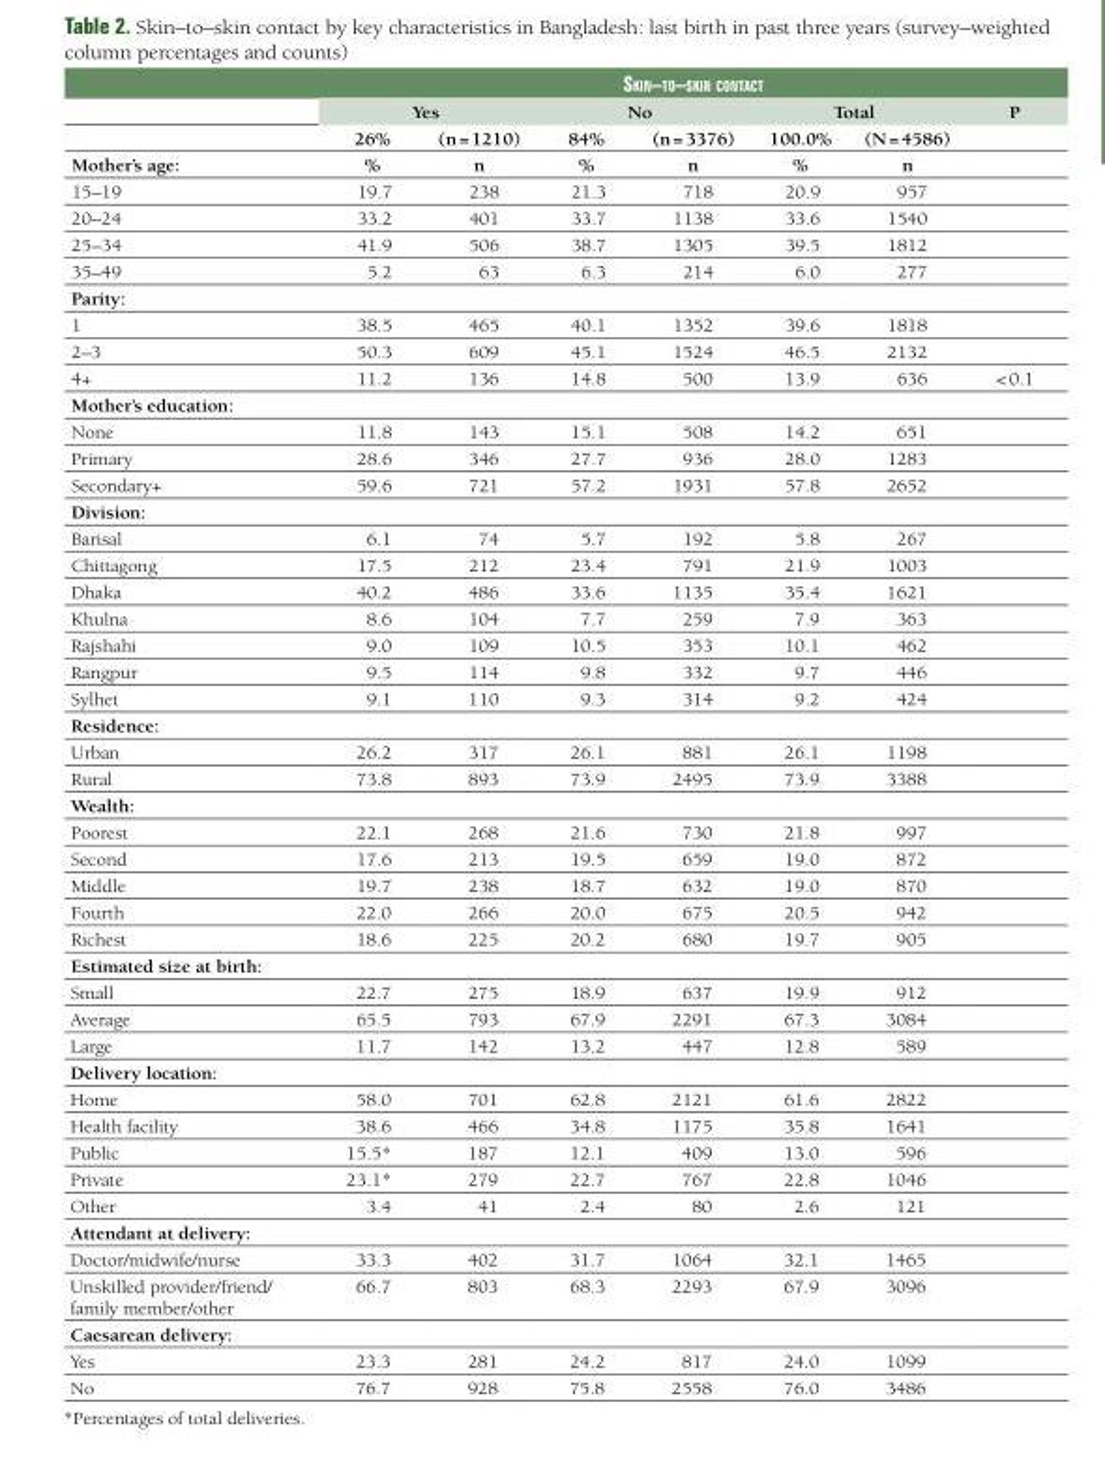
<table><thead><tr><td rowspan="3"></td><td colspan="7">Skin–to–Skin contact</td></tr><tr><td colspan="2">Yes</td><td colspan="2">No</td><td colspan="2">Total</td><td rowspan="2">P</td></tr><tr><td>26%</td><td>(n = 1210)</td><td>84%</td><td>(n = 3376)</td><td>100.0%</td><td>(N = 4586)</td></tr></thead><tbody><tr><td>Mother’s age:</td><td>%</td><td>n</td><td>%</td><td>n</td><td>%</td><td>n</td><td></td></tr><tr><td>15–19</td><td>19.7</td><td>238</td><td>21.3</td><td>718</td><td>20.9</td><td>957</td><td></td></tr><tr><td>20–24</td><td>33.2</td><td>401</td><td>33.7</td><td>1138</td><td>33.6</td><td>1540</td><td></td></tr><tr><td>25–34</td><td>41.9</td><td>506</td><td>38.7</td><td>1305</td><td>39.5</td><td>1812</td><td></td></tr><tr><td>35–49</td><td>5.2</td><td>63</td><td>6.3</td><td>214</td><td>6.0</td><td>277</td><td></td></tr><tr><td colspan="8">Parity:</td></tr><tr><td>1</td><td>38.5</td><td>465</td><td>40.1</td><td>1352</td><td>39.6</td><td>1818</td><td></td></tr><tr><td>2–3</td><td>50.3</td><td>609</td><td>45.1</td><td>1524</td><td>46.5</td><td>2132</td><td></td></tr><tr><td>4+</td><td>11.2</td><td>136</td><td>14.8</td><td>500</td><td>13.9</td><td>636</td><td>&lt; 0.1</td></tr><tr><td colspan="8">Mother’s education:</td></tr><tr><td>None</td><td>11.8</td><td>143</td><td>15.1</td><td>508</td><td>14.2</td><td>651</td><td></td></tr><tr><td>Primary</td><td>28.6</td><td>346</td><td>27.7</td><td>936</td><td>28.0</td><td>1283</td><td></td></tr><tr><td>Secondary+</td><td>59.6</td><td>721</td><td>57.2</td><td>1931</td><td>57.8</td><td>2652</td><td></td></tr><tr><td colspan="8">Division:</td></tr><tr><td>Barisal</td><td>6.1</td><td>74</td><td>5.7</td><td>192</td><td>5.8</td><td>267</td><td></td></tr><tr><td>Chittagong</td><td>17.5</td><td>212</td><td>23.4</td><td>791</td><td>21.9</td><td>1003</td><td></td></tr><tr><td>Dhaka</td><td>40.2</td><td>486</td><td>33.6</td><td>1135</td><td>35.4</td><td>1621</td><td></td></tr><tr><td>Khulna</td><td>8.6</td><td>104</td><td>7.7</td><td>259</td><td>7.9</td><td>363</td><td></td></tr><tr><td>Rajshahi</td><td>9.0</td><td>109</td><td>10.5</td><td>353</td><td>10.1</td><td>462</td><td></td></tr><tr><td>Rangpur</td><td>9.5</td><td>114</td><td>9.8</td><td>332</td><td>9.7</td><td>446</td><td></td></tr><tr><td>Sylhet</td><td>9.1</td><td>110</td><td>9.3</td><td>314</td><td>9.2</td><td>424</td><td></td></tr><tr><td colspan="8">Residence:</td></tr><tr><td>Urban</td><td>26.2</td><td>317</td><td>26.1</td><td>881</td><td>26.1</td><td>1198</td><td></td></tr><tr><td>Rural</td><td>73.8</td><td>893</td><td>73.9</td><td>2495</td><td>73.9</td><td>3388</td><td></td></tr><tr><td colspan="8">Wealth:</td></tr><tr><td>Poorest</td><td>22.1</td><td>268</td><td>21.6</td><td>730</td><td>21.8</td><td>997</td><td></td></tr><tr><td>Second</td><td>17.6</td><td>213</td><td>19.5</td><td>659</td><td>19.0</td><td>872</td><td></td></tr><tr><td>Middle</td><td>19.7</td><td>238</td><td>18.7</td><td>632</td><td>19.0</td><td>870</td><td></td></tr><tr><td>Fourth</td><td>22.0</td><td>266</td><td>20.0</td><td>675</td><td>20.5</td><td>942</td><td></td></tr><tr><td>Richest</td><td>18.6</td><td>225</td><td>20.2</td><td>680</td><td>19.7</td><td>905</td><td></td></tr><tr><td colspan="8">Estimated size at birth:</td></tr><tr><td>Small</td><td>22.7</td><td>275</td><td>18.9</td><td>637</td><td>19.9</td><td>912</td><td></td></tr><tr><td>Average</td><td>65.5</td><td>793</td><td>67.9</td><td>2291</td><td>67.3</td><td>3084</td><td></td></tr><tr><td>Large</td><td>11.7</td><td>142</td><td>13.2</td><td>447</td><td>12.8</td><td>589</td><td></td></tr><tr><td colspan="8">Delivery location:</td></tr><tr><td>Home</td><td>58.0</td><td>701</td><td>62.8</td><td>2121</td><td>61.6</td><td>2822</td><td></td></tr><tr><td>Health facility</td><td>38.6</td><td>466</td><td>34.8</td><td>1175</td><td>35.8</td><td>1641</td><td></td></tr><tr><td>Public</td><td>15.5*</td><td>187</td><td>12.1</td><td>409</td><td>13.0</td><td>596</td><td></td></tr><tr><td>Private</td><td>23.1*</td><td>279</td><td>22.7</td><td>767</td><td>22.8</td><td>1046</td><td></td></tr><tr><td>Other</td><td>3.4</td><td>41</td><td>2.4</td><td>80</td><td>2.6</td><td>121</td><td></td></tr><tr><td colspan="8">Attendant at delivery:</td></tr><tr><td>Doctor/midwife/nurse</td><td>33.3</td><td>402</td><td>31.7</td><td>1064</td><td>32.1</td><td>1465</td><td></td></tr><tr><td>Unskilled provider/friend/ family member/other</td><td>66.7</td><td>803</td><td>68.3</td><td>2293</td><td>67.9</td><td>3096</td><td></td></tr><tr><td colspan="8">Caesarean delivery:</td></tr><tr><td>Yes</td><td>23.3</td><td>281</td><td>24.2</td><td>817</td><td>24.0</td><td>1099</td><td></td></tr><tr><td>No</td><td>76.7</td><td>928</td><td>75.8</td><td>2558</td><td>76.0</td><td>3486</td><td></td></tr></tbody></table>